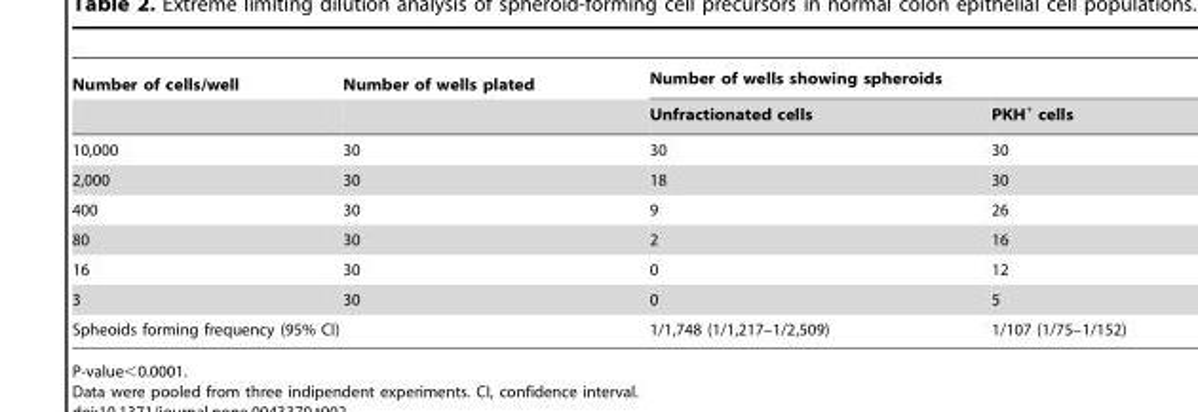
<table><thead><tr><td rowspan="2">Number of cells/well</td><td rowspan="2">Number of wells plated</td><td colspan="2">Number of wells showing spheroids</td></tr><tr><td>Unfractionated cells</td><td>PKH<sup>+</sup> cells</td></tr></thead><tbody><tr><td>10,000</td><td>30</td><td>30</td><td>30</td></tr><tr><td>2,000</td><td>30</td><td>18</td><td>30</td></tr><tr><td>400</td><td>30</td><td>9</td><td>26</td></tr><tr><td>80</td><td>30</td><td>2</td><td>16</td></tr><tr><td>16</td><td>30</td><td>0</td><td>12</td></tr><tr><td>3</td><td>30</td><td>0</td><td>5</td></tr><tr><td colspan="2">Spheoids forming frequency (95% CI)</td><td>1/1,748 (1/1,217–1/2,509)</td><td>1/107 (1/75–1/152)</td></tr></tbody></table>